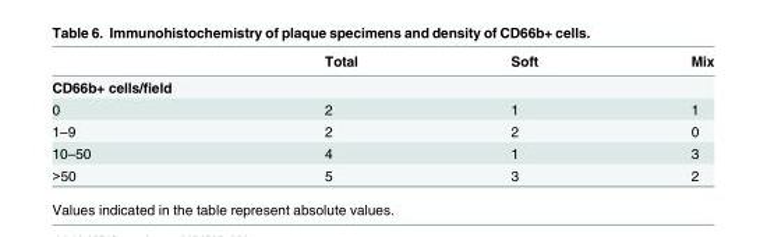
<table><thead><tr><td></td><td>Total</td><td>Soft</td><td>Mix</td></tr></thead><tbody><tr><td colspan="4">CD66b+ cells/field</td></tr><tr><td>0</td><td>2</td><td>1</td><td>1</td></tr><tr><td>1–9</td><td>2</td><td>2</td><td>0</td></tr><tr><td>10–50</td><td>4</td><td>1</td><td>3</td></tr><tr><td>&gt;50</td><td>5</td><td>3</td><td>2</td></tr></tbody></table>